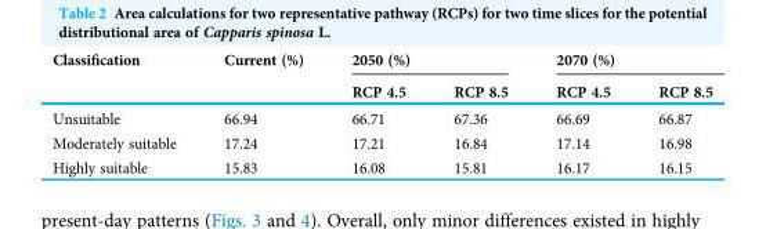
<table><thead><tr><td rowspan="2">Classification</td><td rowspan="2">Current (%)</td><td colspan="2">2050 (%)</td><td colspan="2">2070 (%)</td></tr><tr><td>RCP 4.5</td><td>RCP 8.5</td><td>RCP 4.5</td><td>RCP 8.5</td></tr></thead><tbody><tr><td>Unsuitable</td><td>66.94</td><td>66.71</td><td>67.36</td><td>66.69</td><td>66.87</td></tr><tr><td>Moderately suitable</td><td>17.24</td><td>17.21</td><td>16.84</td><td>17.14</td><td>16.98</td></tr><tr><td>Highly suitable</td><td>15.83</td><td>16.08</td><td>15.81</td><td>16.17</td><td>16.15</td></tr></tbody></table>